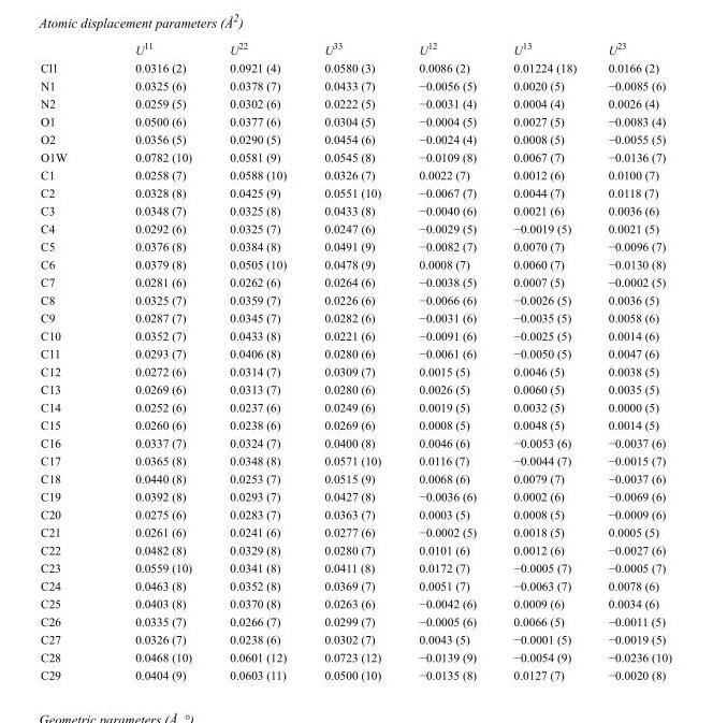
<table><thead><tr><td></td><td>U<sup>11</sup></td><td>U<sup>22</sup></td><td>U<sup>33</sup></td><td>U<sup>12</sup></td><td>U<sup>13</sup></td><td>U<sup>23</sup></td></tr></thead><tbody><tr><td>Cl1</td><td>0.0316 (2)</td><td>0.0921 (4)</td><td>0.0580 (3)</td><td>0.0086 (2)</td><td>0.01224 (18)</td><td>0.0166 (2)</td></tr><tr><td>N1</td><td>0.0325 (6)</td><td>0.0378 (7)</td><td>0.0433 (7)</td><td>−0.0056 (5)</td><td>0.0020 (5)</td><td>−0.0085 (6)</td></tr><tr><td>N2</td><td>0.0259 (5)</td><td>0.0302 (6)</td><td>0.0222 (5)</td><td>−0.0031 (4)</td><td>0.0004 (4)</td><td>0.0026 (4)</td></tr><tr><td>O1</td><td>0.0500 (6)</td><td>0.0377 (6)</td><td>0.0304 (5)</td><td>−0.0004 (5)</td><td>0.0027 (5)</td><td>−0.0083 (4)</td></tr><tr><td>O2</td><td>0.0356 (5)</td><td>0.0290 (5)</td><td>0.0454 (6)</td><td>−0.0024 (4)</td><td>0.0008 (5)</td><td>−0.0055 (5)</td></tr><tr><td>O1W</td><td>0.0782 (10)</td><td>0.0581 (9)</td><td>0.0545 (8)</td><td>−0.0109 (8)</td><td>0.0067 (7)</td><td>−0.0136 (7)</td></tr><tr><td>C1</td><td>0.0258 (7)</td><td>0.0588 (10)</td><td>0.0326 (7)</td><td>0.0022 (7)</td><td>0.0012 (6)</td><td>0.0100 (7)</td></tr><tr><td>C2</td><td>0.0328 (8)</td><td>0.0425 (9)</td><td>0.0551 (10)</td><td>−0.0067 (7)</td><td>0.0044 (7)</td><td>0.0118 (7)</td></tr><tr><td>C3</td><td>0.0348 (7)</td><td>0.0325 (8)</td><td>0.0433 (8)</td><td>−0.0040 (6)</td><td>0.0021 (6)</td><td>0.0036 (6)</td></tr><tr><td>C4</td><td>0.0292 (6)</td><td>0.0325 (7)</td><td>0.0247 (6)</td><td>−0.0029 (5)</td><td>−0.0019 (5)</td><td>0.0021 (5)</td></tr><tr><td>C5</td><td>0.0376 (8)</td><td>0.0384 (8)</td><td>0.0491 (9)</td><td>−0.0082 (7)</td><td>0.0070 (7)</td><td>−0.0096 (7)</td></tr><tr><td>C6</td><td>0.0379 (8)</td><td>0.0505 (10)</td><td>0.0478 (9)</td><td>0.0008 (7)</td><td>0.0060 (7)</td><td>−0.0130 (8)</td></tr><tr><td>C7</td><td>0.0281 (6)</td><td>0.0262 (6)</td><td>0.0264 (6)</td><td>−0.0038 (5)</td><td>0.0007 (5)</td><td>−0.0002 (5)</td></tr><tr><td>C8</td><td>0.0325 (7)</td><td>0.0359 (7)</td><td>0.0226 (6)</td><td>−0.0066 (6)</td><td>−0.0026 (5)</td><td>0.0036 (5)</td></tr><tr><td>C9</td><td>0.0287 (7)</td><td>0.0345 (7)</td><td>0.0282 (6)</td><td>−0.0031 (6)</td><td>−0.0035 (5)</td><td>0.0058 (6)</td></tr><tr><td>C10</td><td>0.0352 (7)</td><td>0.0433 (8)</td><td>0.0221 (6)</td><td>−0.0091 (6)</td><td>−0.0025 (5)</td><td>0.0014 (6)</td></tr><tr><td>C11</td><td>0.0293 (7)</td><td>0.0406 (8)</td><td>0.0280 (6)</td><td>−0.0061 (6)</td><td>−0.0050 (5)</td><td>0.0047 (6)</td></tr><tr><td>C12</td><td>0.0272 (6)</td><td>0.0314 (7)</td><td>0.0309 (7)</td><td>0.0015 (5)</td><td>0.0046 (5)</td><td>0.0038 (5)</td></tr><tr><td>C13</td><td>0.0269 (6)</td><td>0.0313 (7)</td><td>0.0280 (6)</td><td>0.0026 (5)</td><td>0.0060 (5)</td><td>0.0035 (5)</td></tr><tr><td>C14</td><td>0.0252 (6)</td><td>0.0237 (6)</td><td>0.0249 (6)</td><td>0.0019 (5)</td><td>0.0032 (5)</td><td>0.0000 (5)</td></tr><tr><td>C15</td><td>0.0260 (6)</td><td>0.0238 (6)</td><td>0.0269 (6)</td><td>0.0008 (5)</td><td>0.0048 (5)</td><td>0.0014 (5)</td></tr><tr><td>C16</td><td>0.0337 (7)</td><td>0.0324 (7)</td><td>0.0400 (8)</td><td>0.0046 (6)</td><td>−0.0053 (6)</td><td>−0.0037 (6)</td></tr><tr><td>C17</td><td>0.0365 (8)</td><td>0.0348 (8)</td><td>0.0571 (10)</td><td>0.0116 (7)</td><td>−0.0044 (7)</td><td>−0.0015 (7)</td></tr><tr><td>C18</td><td>0.0440 (8)</td><td>0.0253 (7)</td><td>0.0515 (9)</td><td>0.0068 (6)</td><td>0.0079 (7)</td><td>−0.0037 (6)</td></tr><tr><td>C19</td><td>0.0392 (8)</td><td>0.0293 (7)</td><td>0.0427 (8)</td><td>−0.0036 (6)</td><td>0.0002 (6)</td><td>−0.0069 (6)</td></tr><tr><td>C20</td><td>0.0275 (6)</td><td>0.0283 (7)</td><td>0.0363 (7)</td><td>0.0003 (5)</td><td>0.0008 (5)</td><td>−0.0009 (6)</td></tr><tr><td>C21</td><td>0.0261 (6)</td><td>0.0241 (6)</td><td>0.0277 (6)</td><td>−0.0002 (5)</td><td>0.0018 (5)</td><td>0.0005 (5)</td></tr><tr><td>C22</td><td>0.0482 (8)</td><td>0.0329 (8)</td><td>0.0280 (7)</td><td>0.0101 (6)</td><td>0.0012 (6)</td><td>−0.0027 (6)</td></tr><tr><td>C23</td><td>0.0559 (10)</td><td>0.0341 (8)</td><td>0.0411 (8)</td><td>0.0172 (7)</td><td>−0.0005 (7)</td><td>−0.0005 (7)</td></tr><tr><td>C24</td><td>0.0463 (8)</td><td>0.0352 (8)</td><td>0.0369 (7)</td><td>0.0051 (7)</td><td>−0.0063 (7)</td><td>0.0078 (6)</td></tr><tr><td>C25</td><td>0.0403 (8)</td><td>0.0370 (8)</td><td>0.0263 (6)</td><td>−0.0042 (6)</td><td>0.0009 (6)</td><td>0.0034 (6)</td></tr><tr><td>C26</td><td>0.0335 (7)</td><td>0.0266 (7)</td><td>0.0299 (7)</td><td>−0.0005 (6)</td><td>0.0066 (5)</td><td>−0.0011 (5)</td></tr><tr><td>C27</td><td>0.0326 (7)</td><td>0.0238 (6)</td><td>0.0302 (7)</td><td>0.0043 (5)</td><td>−0.0001 (5)</td><td>−0.0019 (5)</td></tr><tr><td>C28</td><td>0.0468 (10)</td><td>0.0601 (12)</td><td>0.0723 (12)</td><td>−0.0139 (9)</td><td>−0.0054 (9)</td><td>−0.0236 (10)</td></tr><tr><td>C29</td><td>0.0404 (9)</td><td>0.0603 (11)</td><td>0.0500 (10)</td><td>−0.0135 (8)</td><td>0.0127 (7)</td><td>−0.0020 (8)</td></tr></tbody></table>